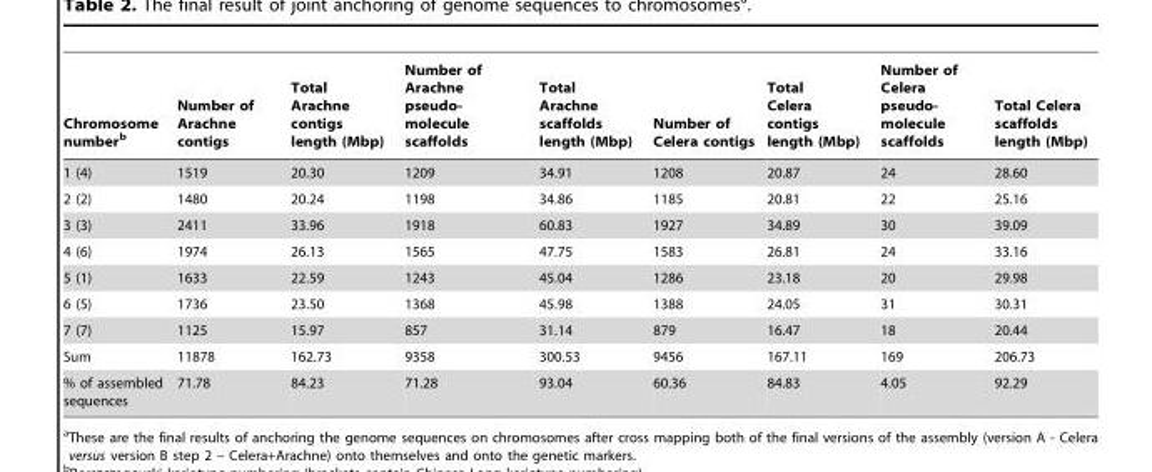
<table><thead><tr><td>Chromosome number<sup>b</sup></td><td>Number of Arachne contigs</td><td>Total Arachne contigs length (Mbp)</td><td>Number of Arachne pseudo- molecule scaffolds</td><td>Total Arachne scaffolds length (Mbp)</td><td>Number of Celera contigs</td><td>Total Celera contigs length (Mbp)</td><td>Number of Celera pseudo- molecule scaffolds</td><td>Total Celera scaffolds length (Mbp)</td></tr></thead><tbody><tr><td>1 (4)</td><td>1519</td><td>20.30</td><td>1209</td><td>34.91</td><td>1208</td><td>20.87</td><td>24</td><td>28.60</td></tr><tr><td>2 (2)</td><td>1480</td><td>20.24</td><td>1198</td><td>34.86</td><td>1185</td><td>20.81</td><td>22</td><td>25.16</td></tr><tr><td>3 (3)</td><td>2411</td><td>33.96</td><td>1918</td><td>60.83</td><td>1927</td><td>34.89</td><td>30</td><td>39.09</td></tr><tr><td>4 (6)</td><td>1974</td><td>26.13</td><td>1565</td><td>47.75</td><td>1583</td><td>26.81</td><td>24</td><td>33.16</td></tr><tr><td>5 (1)</td><td>1633</td><td>22.59</td><td>1243</td><td>45.04</td><td>1286</td><td>23.18</td><td>20</td><td>29.98</td></tr><tr><td>6 (5)</td><td>1736</td><td>23.50</td><td>1368</td><td>45.98</td><td>1388</td><td>24.05</td><td>31</td><td>30.31</td></tr><tr><td>7 (7)</td><td>1125</td><td>15.97</td><td>857</td><td>31.14</td><td>879</td><td>16.47</td><td>18</td><td>20.44</td></tr><tr><td>Sum</td><td>11878</td><td>162.73</td><td>9358</td><td>300.53</td><td>9456</td><td>167.11</td><td>169</td><td>206.73</td></tr><tr><td>% of assembled sequences</td><td>71.78</td><td>84.23</td><td>71.28</td><td>93.04</td><td>60.36</td><td>84.83</td><td>4.05</td><td>92.29</td></tr></tbody></table>